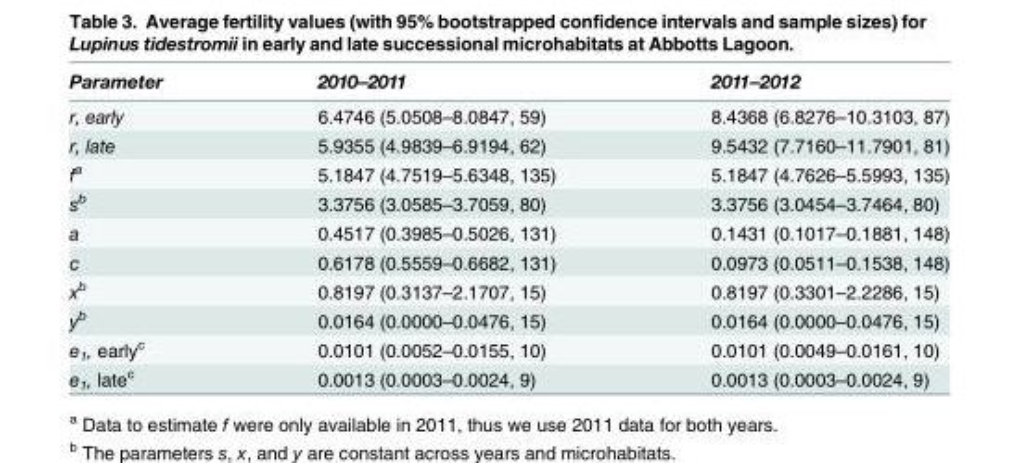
<table><thead><tr><td>Parameter</td><td>2010–2011</td><td>2011–2012</td></tr></thead><tbody><tr><td>r, early</td><td>6.4746 (5.0508–8.0847, 59)</td><td>8.4368 (6.8276–10.3103, 87)</td></tr><tr><td>r, late</td><td>5.9355 (4.9839–6.9194, 62)</td><td>9.5432 (7.7160–11.7901, 81)</td></tr><tr><td>f<sup>a</sup></td><td>5.1847 (4.7519–5.6348, 135)</td><td>5.1847 (4.7626–5.5993, 135)</td></tr><tr><td>s<sup>b</sup></td><td>3.3756 (3.0585–3.7059, 80)</td><td>3.3756 (3.0454–3.7464, 80)</td></tr><tr><td>a</td><td>0.4517 (0.3985–0.5026, 131)</td><td>0.1431 (0.1017–0.1881, 148)</td></tr><tr><td>c</td><td>0.6178 (0.5559–0.6682, 131)</td><td>0.0973 (0.0511–0.1538, 148)</td></tr><tr><td>x<sup>b</sup></td><td>0.8197 (0.3137–2.1707, 15)</td><td>0.8197 (0.3301–2.2286, 15)</td></tr><tr><td>y<sup>b</sup></td><td>0.0164 (0.0000–0.0476, 15)</td><td>0.0164 (0.0000–0.0476, 15)</td></tr><tr><td>e<sub>1</sub>, early<sup>c</sup></td><td>0.0101 (0.0052–0.0155, 10)</td><td>0.0101 (0.0049–0.0161, 10)</td></tr><tr><td>e<sub>1</sub>, late<sup>c</sup></td><td>0.0013 (0.0003–0.0024, 9)</td><td>0.0013 (0.0003–0.0024, 9)</td></tr></tbody></table>